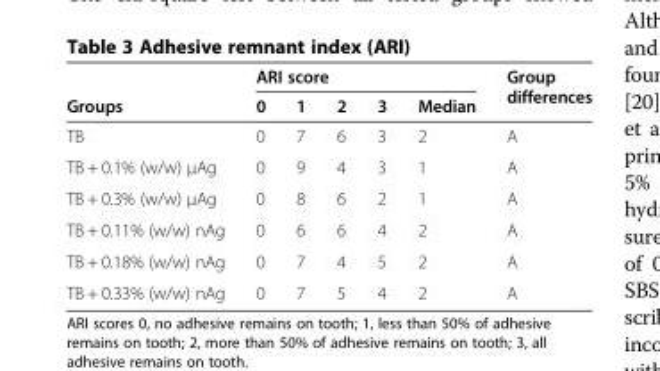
<table><thead><tr><td rowspan="2">Groups</td><td colspan="5">ARI score</td><td rowspan="2">Group differences</td></tr><tr><td>0</td><td>1</td><td>2</td><td>3</td><td>Median</td></tr></thead><tbody><tr><td>TB</td><td>0</td><td>7</td><td>6</td><td>3</td><td>2</td><td>A</td></tr><tr><td>TB + 0.1% (w/w) μAg</td><td>0</td><td>9</td><td>4</td><td>3</td><td>1</td><td>A</td></tr><tr><td>TB + 0.3% (w/w) μAg</td><td>0</td><td>8</td><td>6</td><td>2</td><td>1</td><td>A</td></tr><tr><td>TB + 0.11% (w/w) nAg</td><td>0</td><td>6</td><td>6</td><td>4</td><td>2</td><td>A</td></tr><tr><td>TB + 0.18% (w/w) nAg</td><td>0</td><td>7</td><td>4</td><td>5</td><td>2</td><td>A</td></tr><tr><td>TB + 0.33% (w/w) nAg</td><td>0</td><td>7</td><td>5</td><td>4</td><td>2</td><td>A</td></tr></tbody></table>